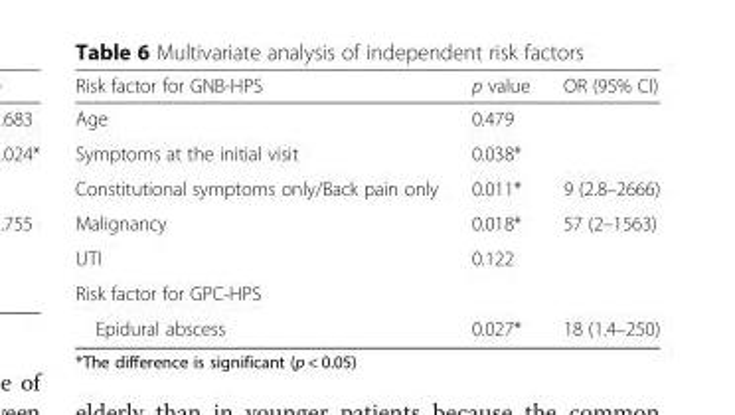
<table><thead><tr><td>Risk factor for GNB-HPS</td><td>p value</td><td>OR (95% CI)</td></tr></thead><tbody><tr><td>Age</td><td>0.479</td><td></td></tr><tr><td>Symptoms at the initial visit</td><td>0.038*</td><td></td></tr><tr><td>Constitutional symptoms only/Back pain only</td><td>0.011*</td><td>9 (2.8–2666)</td></tr><tr><td>Malignancy</td><td>0.018*</td><td>57 (2–1563)</td></tr><tr><td>UTI</td><td>0.122</td><td></td></tr><tr><td colspan="3">Risk factor for GPC-HPS</td></tr><tr><td>Epidural abscess</td><td>0.027*</td><td>18 (1.4–250)</td></tr></tbody></table>